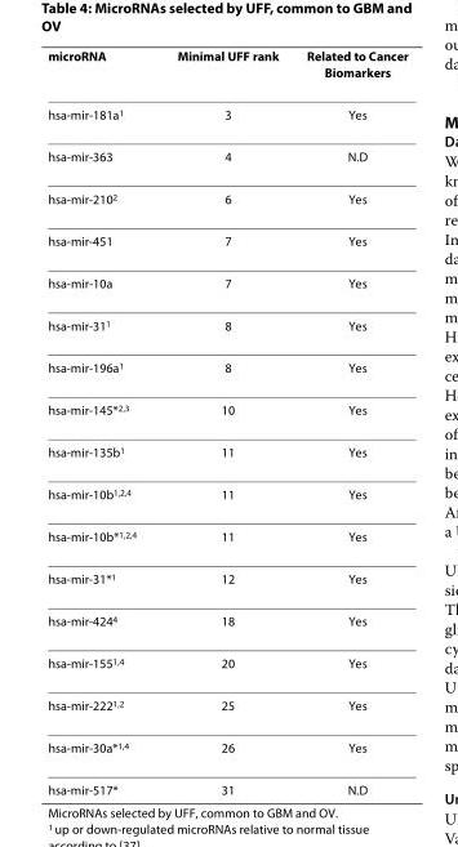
<table><thead><tr><td>microRNA</td><td>Minimal UFF rank</td><td>Related to Cancer Biomarkers</td></tr></thead><tbody><tr><td>hsa-mir-181a<sup>1</sup></td><td>3</td><td>Yes</td></tr><tr><td>hsa-mir-363</td><td>4</td><td>N.D</td></tr><tr><td>hsa-mir-210<sup>2</sup></td><td>6</td><td>Yes</td></tr><tr><td>hsa-mir-451</td><td>7</td><td>Yes</td></tr><tr><td>hsa-mir-10a</td><td>7</td><td>Yes</td></tr><tr><td>hsa-mir-31<sup>1</sup></td><td>8</td><td>Yes</td></tr><tr><td>hsa-mir-196a<sup>1</sup></td><td>8</td><td>Yes</td></tr><tr><td>hsa-mir-145*<sup>2,3</sup></td><td>10</td><td>Yes</td></tr><tr><td>hsa-mir-135b<sup>1</sup></td><td>11</td><td>Yes</td></tr><tr><td>hsa-mir-10b<sup>1,2,4</sup></td><td>11</td><td>Yes</td></tr><tr><td>hsa-mir-10b*<sup>1,2,4</sup></td><td>11</td><td>Yes</td></tr><tr><td>hsa-mir-31*<sup>1</sup></td><td>12</td><td>Yes</td></tr><tr><td>hsa-mir-424<sup>4</sup></td><td>18</td><td>Yes</td></tr><tr><td>hsa-mir-155<sup>1,4</sup></td><td>20</td><td>Yes</td></tr><tr><td>hsa-mir-222<sup>1,2</sup></td><td>25</td><td>Yes</td></tr><tr><td>hsa-mir-30a*<sup>1,4</sup></td><td>26</td><td>Yes</td></tr><tr><td>hsa-mir-517*</td><td>31</td><td>N.D</td></tr></tbody></table>